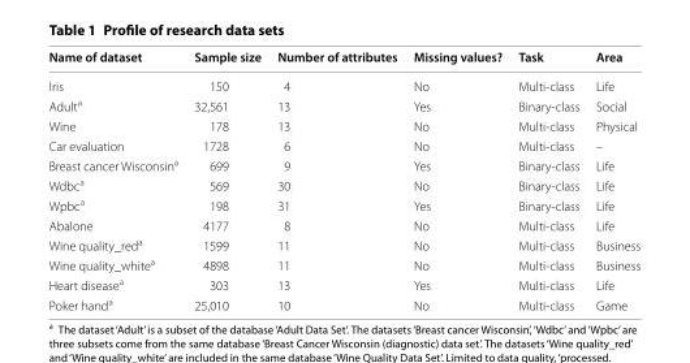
<table><thead><tr><td>Name of dataset</td><td>Sample size</td><td>Number of attributes</td><td>Missing values?</td><td>Task</td><td>Area</td></tr></thead><tbody><tr><td>Iris</td><td>150</td><td>4</td><td>No</td><td>Multi-class</td><td>Life</td></tr><tr><td>Adult<sup>a</sup></td><td>32,561</td><td>13</td><td>Yes</td><td>Binary-class</td><td>Social</td></tr><tr><td>Wine</td><td>178</td><td>13</td><td>No</td><td>Multi-class</td><td>Physical</td></tr><tr><td>Car evaluation</td><td>1728</td><td>6</td><td>No</td><td>Multi-class</td><td>–</td></tr><tr><td>Breast cancer Wisconsin<sup>a</sup></td><td>699</td><td>9</td><td>Yes</td><td>Binary-class</td><td>Life</td></tr><tr><td>Wdbc<sup>a</sup></td><td>569</td><td>30</td><td>No</td><td>Binary-class</td><td>Life</td></tr><tr><td>Wpbc<sup>a</sup></td><td>198</td><td>31</td><td>Yes</td><td>Binary-class</td><td>Life</td></tr><tr><td>Abalone</td><td>4177</td><td>8</td><td>No</td><td>Multi-class</td><td>Life</td></tr><tr><td>Wine quality_red<sup>a</sup></td><td>1599</td><td>11</td><td>No</td><td>Multi-class</td><td>Business</td></tr><tr><td>Wine quality_white<sup>a</sup></td><td>4898</td><td>11</td><td>No</td><td>Multi-class</td><td>Business</td></tr><tr><td>Heart disease<sup>a</sup></td><td>303</td><td>13</td><td>Yes</td><td>Multi-class</td><td>Life</td></tr><tr><td>Poker hand<sup>a</sup></td><td>25,010</td><td>10</td><td>No</td><td>Multi-class</td><td>Game</td></tr></tbody></table>